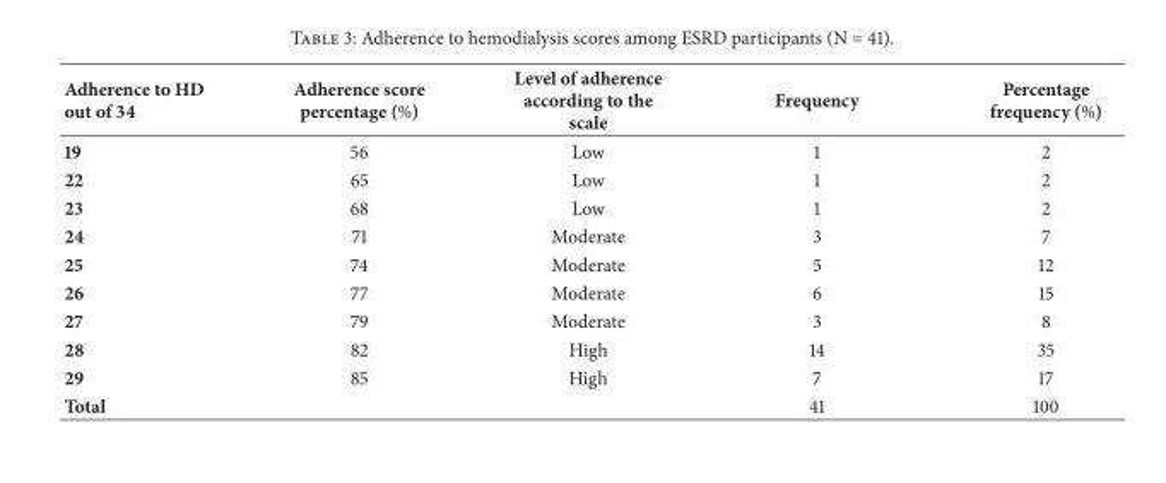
<table><thead><tr><td>Adherence to HD out of 34</td><td>Adherence score percentage (%)</td><td>Level of adherence according to the scale</td><td>Frequency</td><td>Percentage frequency (%)</td></tr></thead><tbody><tr><td>19</td><td>56</td><td>Low</td><td>1</td><td>2</td></tr><tr><td>22</td><td>65</td><td>Low</td><td>1</td><td>2</td></tr><tr><td>23</td><td>68</td><td>Low</td><td>1</td><td>2</td></tr><tr><td>24</td><td>71</td><td>Moderate</td><td>3</td><td>7</td></tr><tr><td>25</td><td>74</td><td>Moderate</td><td>5</td><td>12</td></tr><tr><td>26</td><td>77</td><td>Moderate</td><td>6</td><td>15</td></tr><tr><td>27</td><td>79</td><td>Moderate</td><td>3</td><td>8</td></tr><tr><td>28</td><td>82</td><td>High</td><td>14</td><td>35</td></tr><tr><td>29</td><td>85</td><td>High</td><td>7</td><td>17</td></tr><tr><td>Total</td><td></td><td></td><td>41</td><td>100</td></tr></tbody></table>